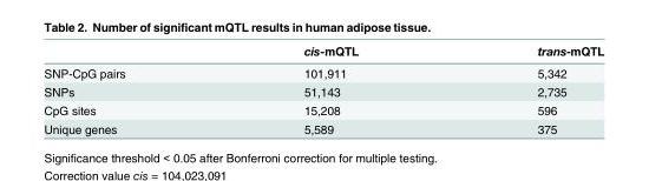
<table><thead><tr><td></td><td>cis-mQTL</td><td>trans-mQTL</td></tr></thead><tbody><tr><td>SNP-CpG pairs</td><td>101,911</td><td>5,342</td></tr><tr><td>SNPs</td><td>51,143</td><td>2,735</td></tr><tr><td>CpG sites</td><td>15,208</td><td>596</td></tr><tr><td>Unique genes</td><td>5,589</td><td>375</td></tr></tbody></table>